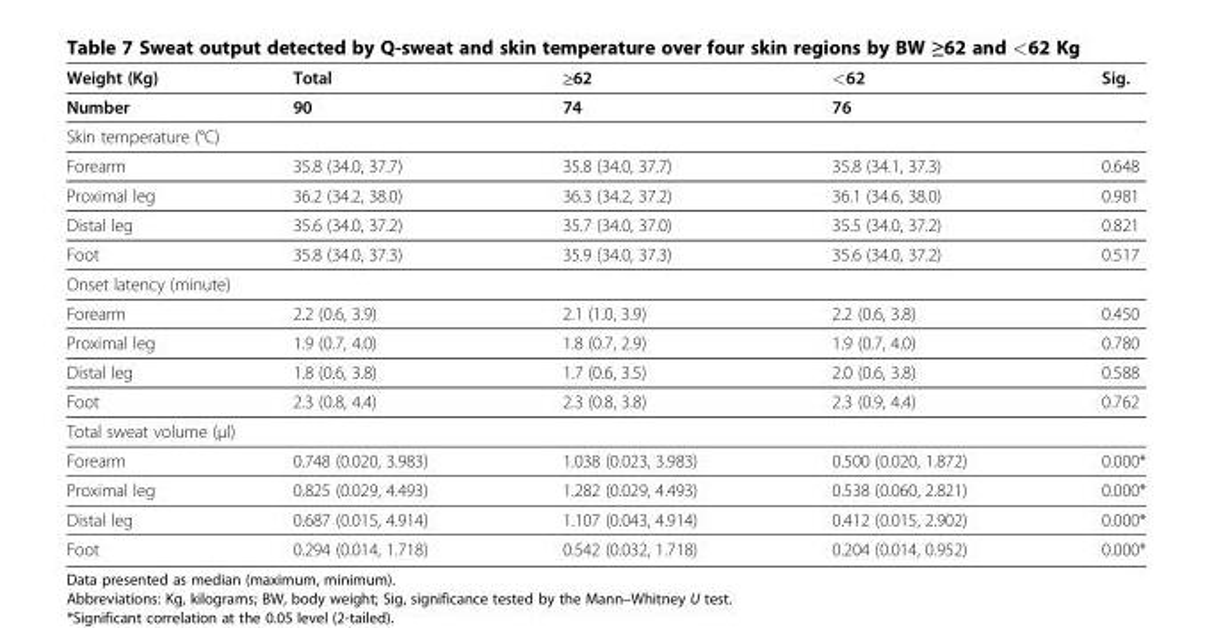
<table><thead><tr><td rowspan="2">Weight (Kg) Number</td><td rowspan="2">Total 90</td><td rowspan="2">≥62 74</td><td rowspan="2">&lt;62 76</td><td rowspan="2">Sig.</td></tr><tr></tr></thead><tbody><tr><td colspan="5">Skin temperature (°C)</td></tr><tr><td>Forearm</td><td>35.8 (34.0, 37.7)</td><td>35.8 (34.0, 37.7)</td><td>35.8 (34.1, 37.3)</td><td>0.648</td></tr><tr><td>Proximal leg</td><td>36.2 (34.2, 38.0)</td><td>36.3 (34.2, 37.2)</td><td>36.1 (34.6, 38.0)</td><td>0.981</td></tr><tr><td>Distal leg</td><td>35.6 (34.0, 37.2)</td><td>35.7 (34.0, 37.0)</td><td>35.5 (34.0, 37.2)</td><td>0.821</td></tr><tr><td>Foot</td><td>35.8 (34.0, 37.3)</td><td>35.9 (34.0, 37.3)</td><td>35.6 (34.0, 37.2)</td><td>0.517</td></tr><tr><td colspan="5">Onset latency (minute)</td></tr><tr><td>Forearm</td><td>2.2 (0.6, 3.9)</td><td>2.1 (1.0, 3.9)</td><td>2.2 (0.6, 3.8)</td><td>0.450</td></tr><tr><td>Proximal leg</td><td>1.9 (0.7, 4.0)</td><td>1.8 (0.7, 2.9)</td><td>1.9 (0.7, 4.0)</td><td>0.780</td></tr><tr><td>Distal leg</td><td>1.8 (0.6, 3.8)</td><td>1.7 (0.6, 3.5)</td><td>2.0 (0.6, 3.8)</td><td>0.588</td></tr><tr><td>Foot</td><td>2.3 (0.8, 4.4)</td><td>2.3 (0.8, 3.8)</td><td>2.3 (0.9, 4.4)</td><td>0.762</td></tr><tr><td colspan="5">Total sweat volume (μl)</td></tr><tr><td>Forearm</td><td>0.748 (0.020, 3.983)</td><td>1.038 (0.023, 3.983)</td><td>0.500 (0.020, 1.872)</td><td>0.000*</td></tr><tr><td>Proximal leg</td><td>0.825 (0.029, 4.493)</td><td>1.282 (0.029, 4.493)</td><td>0.538 (0.060, 2.821)</td><td>0.000*</td></tr><tr><td>Distal leg</td><td>0.687 (0.015, 4.914)</td><td>1.107 (0.043, 4.914)</td><td>0.412 (0.015, 2.902)</td><td>0.000*</td></tr><tr><td>Foot</td><td>0.294 (0.014, 1.718)</td><td>0.542 (0.032, 1.718)</td><td>0.204 (0.014, 0.952)</td><td>0.000*</td></tr></tbody></table>